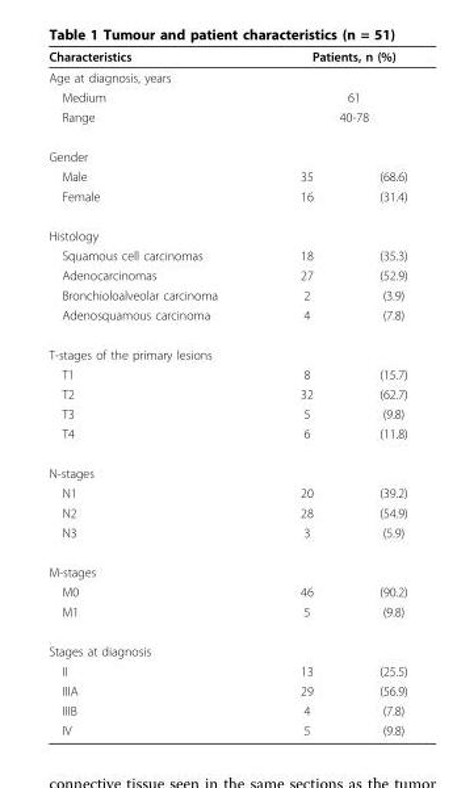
<table><thead><tr><td rowspan="2">Characteristics Age at diagnosis, years</td><td colspan="2">Patients, n (%)</td></tr><tr><td></td><td></td></tr></thead><tbody><tr><td>Medium</td><td colspan="2">61</td></tr><tr><td>Range</td><td colspan="2">40-78</td></tr><tr><td colspan="3">Gender</td></tr><tr><td>Male</td><td>35</td><td>(68.6)</td></tr><tr><td>Female</td><td>16</td><td>(31.4)</td></tr><tr><td colspan="3">Histology</td></tr><tr><td>Squamous cell carcinomas</td><td>18</td><td>(35.3)</td></tr><tr><td>Adenocarcinomas</td><td>27</td><td>(52.9)</td></tr><tr><td>Bronchioloalveolar carcinoma</td><td>2</td><td>(3.9)</td></tr><tr><td>Adenosquamous carcinoma</td><td>4</td><td>(7.8)</td></tr><tr><td colspan="3">T-stages of the primary lesions</td></tr><tr><td>T1</td><td>8</td><td>(15.7)</td></tr><tr><td>T2</td><td>32</td><td>(62.7)</td></tr><tr><td>T3</td><td>5</td><td>(9.8)</td></tr><tr><td>T4</td><td>6</td><td>(11.8)</td></tr><tr><td colspan="3">N-stages</td></tr><tr><td>N1</td><td>20</td><td>(39.2)</td></tr><tr><td>N2</td><td>28</td><td>(54.9)</td></tr><tr><td>N3</td><td>3</td><td>(5.9)</td></tr><tr><td colspan="3">M-stages</td></tr><tr><td>M0</td><td>46</td><td>(90.2)</td></tr><tr><td>M1</td><td>5</td><td>(9.8)</td></tr><tr><td colspan="3">Stages at diagnosis</td></tr><tr><td>II</td><td>13</td><td>(25.5)</td></tr><tr><td>IIIA</td><td>29</td><td>(56.9)</td></tr><tr><td>IIIB</td><td>4</td><td>(7.8)</td></tr><tr><td>IV</td><td>5</td><td>(9.8)</td></tr></tbody></table>